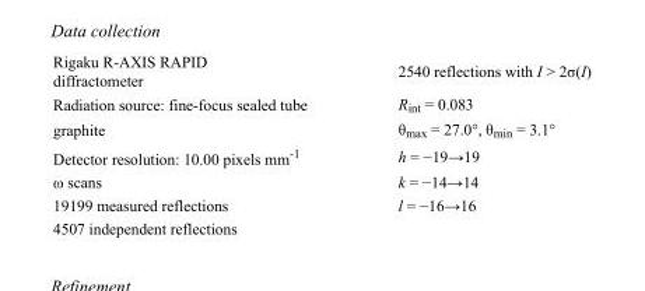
<table><tbody><tr><td>Rigaku R-AXIS RAPID diffractometer</td><td>2540 reflections with I &gt; 2σ(I)</td></tr><tr><td>Radiation source: fine-focus sealed tube</td><td>R<sub>int</sub> = 0.083</td></tr><tr><td>graphite</td><td>θ<sub>max</sub> = 27.0°, θ<sub>min</sub> = 3.1°</td></tr><tr><td>Detector resolution: 10.00 pixels mm<sup>-1</sup></td><td>h = −19→19</td></tr><tr><td>ω scans</td><td>k = −14→14</td></tr><tr><td>19199 measured reflections</td><td>l = −16→16</td></tr><tr><td>4507 independent reflections</td><td></td></tr></tbody></table>